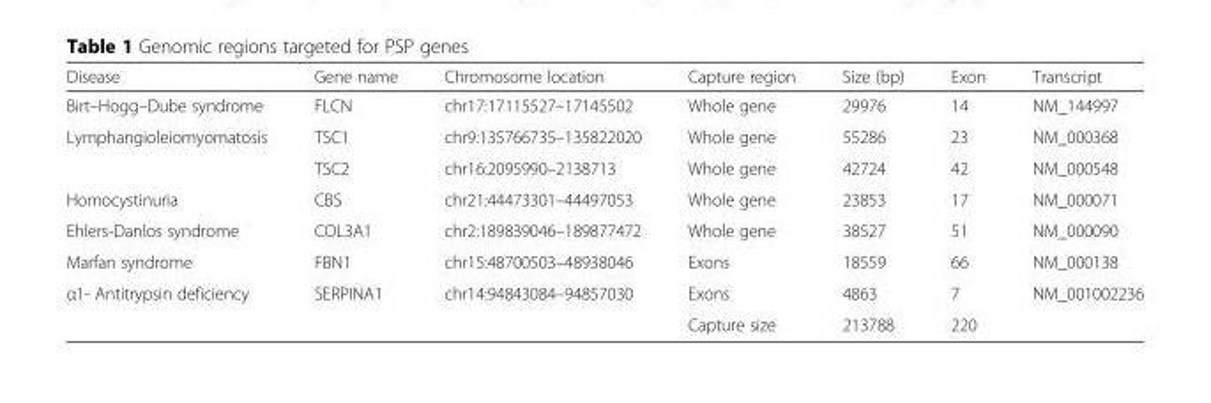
<table><thead><tr><td>Disease</td><td>Gene name</td><td>Chromosome location</td><td>Capture region</td><td>Size (bp)</td><td>Exon</td><td>Transcript</td></tr></thead><tbody><tr><td>Birt–Hogg–Dube syndrome</td><td>FLCN</td><td>chr17:17115527–17145502</td><td>Whole gene</td><td>29976</td><td>14</td><td>NM_144997</td></tr><tr><td rowspan="2">Lymphangioleiomyomatosis</td><td>TSC1</td><td>chr9:135766735–135822020</td><td>Whole gene</td><td>55286</td><td>23</td><td>NM_000368</td></tr><tr><td>TSC2</td><td>chr16:2095990–2138713</td><td>Whole gene</td><td>42724</td><td>42</td><td>NM_000548</td></tr><tr><td>Homocystinuria</td><td>CBS</td><td>chr21:44473301–44497053</td><td>Whole gene</td><td>23853</td><td>17</td><td>NM_000071</td></tr><tr><td>Ehlers-Danlos syndrome</td><td>COL3A1</td><td>chr2:189839046–189877472</td><td>Whole gene</td><td>38527</td><td>51</td><td>NM_000090</td></tr><tr><td>Marfan syndrome</td><td>FBN1</td><td>chr15:48700503–48938046</td><td>Exons</td><td>18559</td><td>66</td><td>NM_000138</td></tr><tr><td rowspan="2">α1- Antitrypsin deficiency</td><td>SERPINA1</td><td>chr14:94843084–94857030</td><td>Exons</td><td>4863</td><td>7</td><td>NM_001002236</td></tr><tr><td></td><td></td><td>Capture size</td><td>213788</td><td>220</td><td></td></tr></tbody></table>